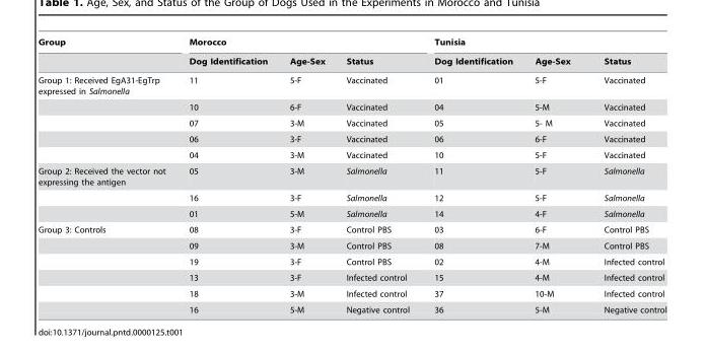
<table><thead><tr><td rowspan="2">Group</td><td colspan="3">Morocco</td><td colspan="3">Tunisia</td></tr><tr><td>Dog Identification</td><td>Age-Sex</td><td>Status</td><td>Dog Identification</td><td>Age-Sex</td><td>Status</td></tr></thead><tbody><tr><td rowspan="5">Group 1: Received EgA31-EgTrp expressed in Salmonella</td><td>11</td><td>5-F</td><td>Vaccinated</td><td>01</td><td>5-F</td><td>Vaccinated</td></tr><tr><td>10</td><td>6-F</td><td>Vaccinated</td><td>04</td><td>5-M</td><td>Vaccinated</td></tr><tr><td>07</td><td>3-M</td><td>Vaccinated</td><td>05</td><td>5- M</td><td>Vaccinated</td></tr><tr><td>06</td><td>3-F</td><td>Vaccinated</td><td>06</td><td>6-F</td><td>Vaccinated</td></tr><tr><td>04</td><td>3-M</td><td>Vaccinated</td><td>10</td><td>5-F</td><td>Vaccinated</td></tr><tr><td rowspan="3">Group 2: Received the vector not expressing the antigen</td><td>05</td><td>3-M</td><td>Salmonella</td><td>11</td><td>5-F</td><td>Salmonella</td></tr><tr><td>16</td><td>3-F</td><td>Salmonella</td><td>12</td><td>5-F</td><td>Salmonella</td></tr><tr><td>01</td><td>5-M</td><td>Salmonella</td><td>14</td><td>4-F</td><td>Salmonella</td></tr><tr><td rowspan="6">Group 3: Controls</td><td>08</td><td>3-F</td><td>Control PBS</td><td>03</td><td>6-F</td><td>Control PBS</td></tr><tr><td>09</td><td>3-M</td><td>Control PBS</td><td>08</td><td>7-M</td><td>Control PBS</td></tr><tr><td>19</td><td>3-F</td><td>Control PBS</td><td>02</td><td>4-M</td><td>Infected control</td></tr><tr><td>13</td><td>3-F</td><td>Infected control</td><td>15</td><td>4-M</td><td>Infected control</td></tr><tr><td>18</td><td>3-M</td><td>Infected control</td><td>37</td><td>10-M</td><td>Infected control</td></tr><tr><td>16</td><td>5-M</td><td>Negative control</td><td>36</td><td>5-M</td><td>Negative control</td></tr></tbody></table>